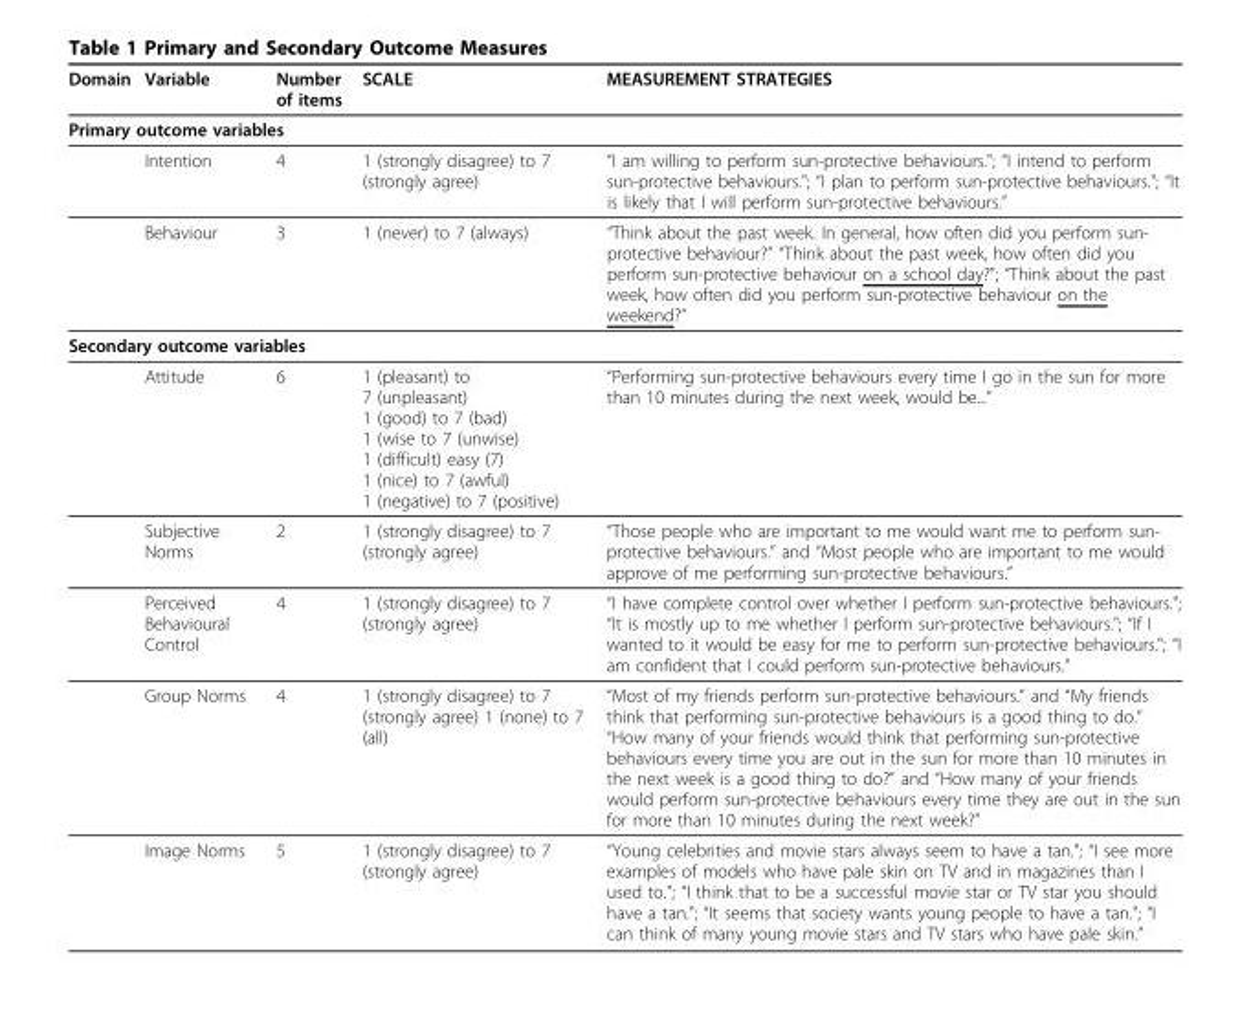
<table><thead><tr><td>Domain</td><td>Variable</td><td>Number of items</td><td>SCALE</td><td>MEASUREMENT STRATEGIES</td></tr></thead><tbody><tr><td colspan="5">Primary outcome variables</td></tr><tr><td></td><td>Intention</td><td>4</td><td>1 (strongly disagree) to 7 (strongly agree)</td><td>“I am willing to perform sun-protective behaviours.&quot;; “I intend to perform sun-protective behaviours.&quot;; “I plan to perform sun-protective behaviours.&quot;; “It is likely that I will perform sun-protective behaviours.”</td></tr><tr><td></td><td>Behaviour</td><td>3</td><td>1 (never) to 7 (always)</td><td>“Think about the past week. In general, how often did you perform sun- protective behaviour?” “Think about the past week, how often did you perform sun-protective behaviour on a school day?&quot;; “Think about the past week, how often did you perform sun-protective behaviour on the weekend?”</td></tr><tr><td colspan="5">Secondary outcome variables</td></tr><tr><td></td><td>Attitude</td><td>6</td><td>1 (pleasant) to 7 (unpleasant) 1 (good) to 7 (bad) 1 (wise to 7 (unwise) 1 (difficult) easy (7) 1 (nice) to 7 (awful) 1 (negative) to 7 (positive)</td><td>“Performing sun-protective behaviours every time I go in the sun for more than 10 minutes during the next week, would be...”</td></tr><tr><td></td><td>Subjective Norms</td><td>2</td><td>1 (strongly disagree) to 7 (strongly agree)</td><td>“Those people who are important to me would want me to perform sun- protective behaviours.” and “Most people who are important to me would approve of me performing sun-protective behaviours.”</td></tr><tr><td></td><td>Perceived Behavioural Control</td><td>4</td><td>1 (strongly disagree) to 7 (strongly agree)</td><td>“I have complete control over whether I perform sun-protective behaviours.&quot;; “It is mostly up to me whether I perform sun-protective behaviours.&quot;; “If I wanted to it would be easy for me to perform sun-protective behaviours.&quot;; “I am confident that I could perform sun-protective behaviours.”</td></tr><tr><td></td><td>Group Norms</td><td>4</td><td>1 (strongly disagree) to 7 (strongly agree) 1 (none) to 7 (all)</td><td>“Most of my friends perform sun-protective behaviours.” and “My friends think that performing sun-protective behaviours is a good thing to do.” “How many of your friends would think that performing sun-protective behaviours every time you are out in the sun for more than 10 minutes in the next week is a good thing to do?” and “How many of your friends would perform sun-protective behaviours every time they are out in the sun for more than 10 minutes during the next week?”</td></tr><tr><td></td><td>Image Norms</td><td>5</td><td>1 (strongly disagree) to 7 (strongly agree)</td><td>“Young celebrities and movie stars always seem to have a tan.&quot;; “I see more examples of models who have pale skin on TV and in magazines than I used to.&quot;; “I think that to be a successful movie star or TV star you should have a tan.&quot;; “It seems that society wants young people to have a tan.&quot;; “I can think of many young movie stars and TV stars who have pale skin.”</td></tr></tbody></table>